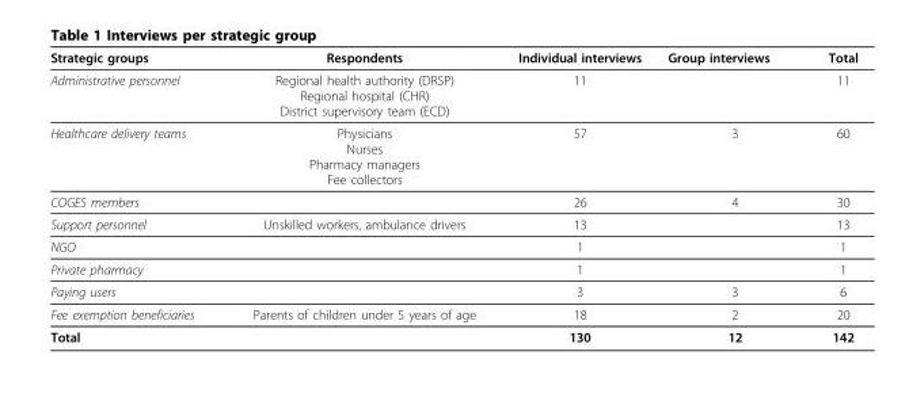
<table><thead><tr><td>Strategic groups</td><td>Respondents</td><td>Individual interviews</td><td>Group interviews</td><td>Total</td></tr></thead><tbody><tr><td>Administrative personnel</td><td>Regional health authority (DRSP) Regional hospital (CHR) District supervisory team (ECD)</td><td>11</td><td></td><td>11</td></tr><tr><td>Healthcare delivery teams</td><td>Physicians Nurses Pharmacy managers Fee collectors</td><td>57</td><td>3</td><td>60</td></tr><tr><td>COGES members</td><td></td><td>26</td><td>4</td><td>30</td></tr><tr><td>Support personnel</td><td>Unskilled workers, ambulance drivers</td><td>13</td><td></td><td>13</td></tr><tr><td>NGO</td><td></td><td>1</td><td></td><td>1</td></tr><tr><td>Private pharmacy</td><td></td><td>1</td><td></td><td>1</td></tr><tr><td>Paying users</td><td></td><td>3</td><td>3</td><td>6</td></tr><tr><td>Fee exemption beneficiaries</td><td>Parents of children under 5 years of age</td><td>18</td><td>2</td><td>20</td></tr><tr><td>Total</td><td></td><td>130</td><td>12</td><td>142</td></tr></tbody></table>